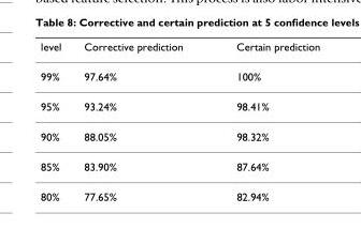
<table><thead><tr><td>level</td><td>Corrective prediction</td><td>Certain prediction</td></tr></thead><tbody><tr><td>99%</td><td>97.64%</td><td>100%</td></tr><tr><td>95%</td><td>93.24%</td><td>98.41%</td></tr><tr><td>90%</td><td>88.05%</td><td>98.32%</td></tr><tr><td>85%</td><td>83.90%</td><td>87.64%</td></tr><tr><td>80%</td><td>77.65%</td><td>82.94%</td></tr></tbody></table>